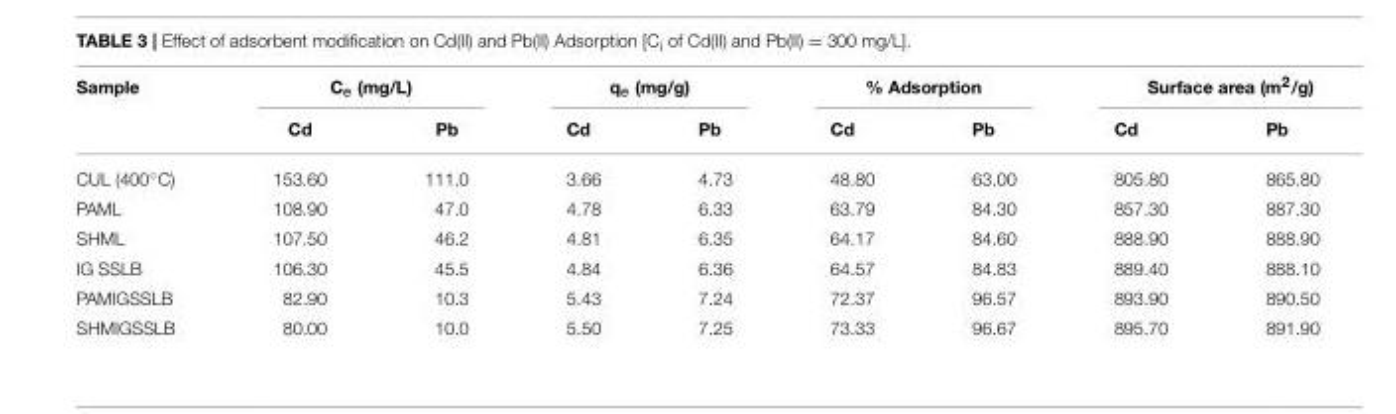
<table><thead><tr><td rowspan="2">Sample</td><td colspan="2">C<sub>e</sub> (mg/L)</td><td colspan="2">q<sub>e</sub> (mg/g)</td><td colspan="2">% Adsorption</td><td colspan="2">Surface area (m<sup>2</sup>/g)</td></tr><tr><td>Cd</td><td>Pb</td><td>Cd</td><td>Pb</td><td>Cd</td><td>Pb</td><td>Cd</td><td>Pb</td></tr></thead><tbody><tr><td>CUL (400◦C)</td><td>153.60</td><td>111.0</td><td>3.66</td><td>4.73</td><td>48.80</td><td>63.00</td><td>805.80</td><td>865.80</td></tr><tr><td>PAML</td><td>108.90</td><td>47.0</td><td>4.78</td><td>6.33</td><td>63.79</td><td>84.30</td><td>857.30</td><td>887.30</td></tr><tr><td>SHML</td><td>107.50</td><td>46.2</td><td>4.81</td><td>6.35</td><td>64.17</td><td>84.60</td><td>888.90</td><td>888.90</td></tr><tr><td>IG SSLB</td><td>106.30</td><td>45.5</td><td>4.84</td><td>6.36</td><td>64.57</td><td>84.83</td><td>889.40</td><td>888.10</td></tr><tr><td>PAMIGSSLB</td><td>82.90</td><td>10.3</td><td>5.43</td><td>7.24</td><td>72.37</td><td>96.57</td><td>893.90</td><td>890.50</td></tr><tr><td>SHMIGSSLB</td><td>80.00</td><td>10.0</td><td>5.50</td><td>7.25</td><td>73.33</td><td>96.67</td><td>895.70</td><td>891.90</td></tr></tbody></table>